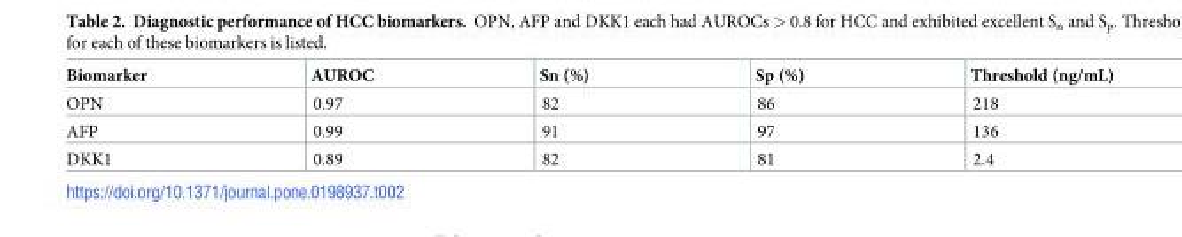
<table><thead><tr><td>Biomarker</td><td>AUROC</td><td>Sn (%)</td><td>Sp (%)</td><td>Threshold (ng/mL)</td></tr></thead><tbody><tr><td>OPN</td><td>0.97</td><td>82</td><td>86</td><td>218</td></tr><tr><td>AFP</td><td>0.99</td><td>91</td><td>97</td><td>136</td></tr><tr><td>DKK1</td><td>0.89</td><td>82</td><td>81</td><td>2.4</td></tr></tbody></table>